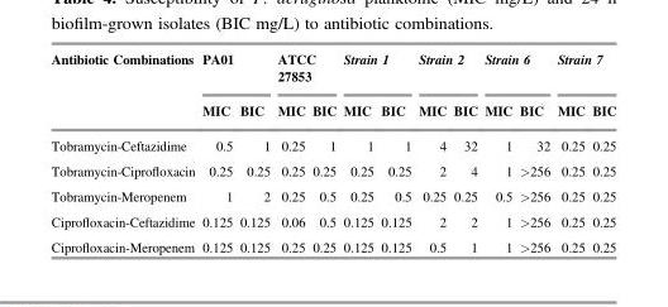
<table><thead><tr><td rowspan="2">Antibiotic Combinations</td><td colspan="2">PA01</td><td colspan="2">ATCC 27853</td><td colspan="2">Strain 1</td><td colspan="2">Strain 2</td><td colspan="2">Strain 6</td><td colspan="2">Strain 7</td></tr><tr><td>MIC</td><td>BIC</td><td>MIC</td><td>BIC</td><td>MIC</td><td>BIC</td><td>MIC</td><td>BIC</td><td>MIC</td><td>BIC</td><td>MIC</td><td>BIC</td></tr></thead><tbody><tr><td>Tobramycin-Ceftazidime</td><td>0.5</td><td>1</td><td>0.25</td><td>1</td><td>1</td><td>1</td><td>4</td><td>32</td><td>1</td><td>32</td><td>0.25</td><td>0.25</td></tr><tr><td>Tobramycin-Ciprofloxacin</td><td>0.25</td><td>0.25</td><td>0.25</td><td>0.25</td><td>0.25</td><td>0.25</td><td>2</td><td>4</td><td>1</td><td>&gt;256</td><td>0.25</td><td>0.25</td></tr><tr><td>Tobramycin-Meropenem</td><td>1</td><td>2</td><td>0.25</td><td>0.5</td><td>0.25</td><td>0.5</td><td>0.25</td><td>0.25</td><td>0.5</td><td>&gt;256</td><td>0.25</td><td>0.25</td></tr><tr><td>Ciprofloxacin-Ceftazidime</td><td>0.125</td><td>0.125</td><td>0.06</td><td>0.5</td><td>0.125</td><td>0.125</td><td>2</td><td>2</td><td>1</td><td>&gt;256</td><td>0.25</td><td>0.25</td></tr><tr><td>Ciprofloxacin-Meropenem</td><td>0.125</td><td>0.125</td><td>0.25</td><td>0.25</td><td>0.125</td><td>0.125</td><td>0.5</td><td>1</td><td>1</td><td>&gt;256</td><td>0.25</td><td>0.25</td></tr></tbody></table>